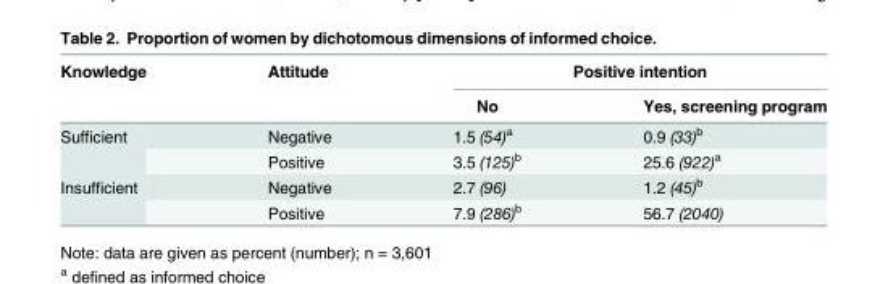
<table><thead><tr><td rowspan="2">Knowledge</td><td rowspan="2">Attitude</td><td colspan="2">Positive intention</td></tr><tr><td>No</td><td>Yes, screening program</td></tr></thead><tbody><tr><td rowspan="2">Sufficient</td><td>Negative</td><td>1.5 (54)<sup>a</sup></td><td>0.9 (33)<sup>b</sup></td></tr><tr><td>Positive</td><td>3.5 (125)<sup>b</sup></td><td>25.6 (922)<sup>a</sup></td></tr><tr><td rowspan="2">Insufficient</td><td>Negative</td><td>2.7 (96)</td><td>1.2 (45)<sup>b</sup></td></tr><tr><td>Positive</td><td>7.9 (286)<sup>b</sup></td><td>56.7 (2040)</td></tr></tbody></table>